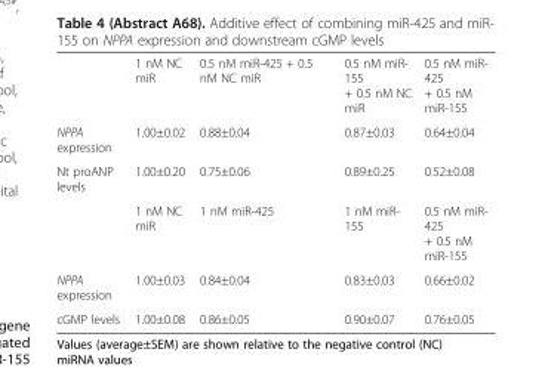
<table><thead><tr><td></td><td>1 nM NC miR</td><td>0.5 nM miR-425 + 0.5 nM NC miR</td><td>0.5 nM miR- 155 + 0.5 nM NC miR</td><td>0.5 nM miR- 425 + 0.5 nM miR-155</td></tr></thead><tbody><tr><td>NPPA expression</td><td>1.00±0.02</td><td>0.88±0.04</td><td>0.87±0.03</td><td>0.64±0.04</td></tr><tr><td rowspan="2">Nt proANP levels</td><td>1.00±0.20</td><td>0.75±0.06</td><td>0.89±0.25</td><td>0.52±0.08</td></tr><tr><td>1 nM NC miR</td><td>1 nM miR-425</td><td>1 nM miR- 155</td><td>0.5 nM miR- 425 + 0.5 nM miR-155</td></tr><tr><td>NPPA expression</td><td>1.00±0.03</td><td>0.84±0.04</td><td>0.83±0.03</td><td>0.66±0.02</td></tr><tr><td>cGMP levels</td><td>1.00±0.08</td><td>0.86±0.05</td><td>0.90±0.07</td><td>0.76±0.05</td></tr></tbody></table>